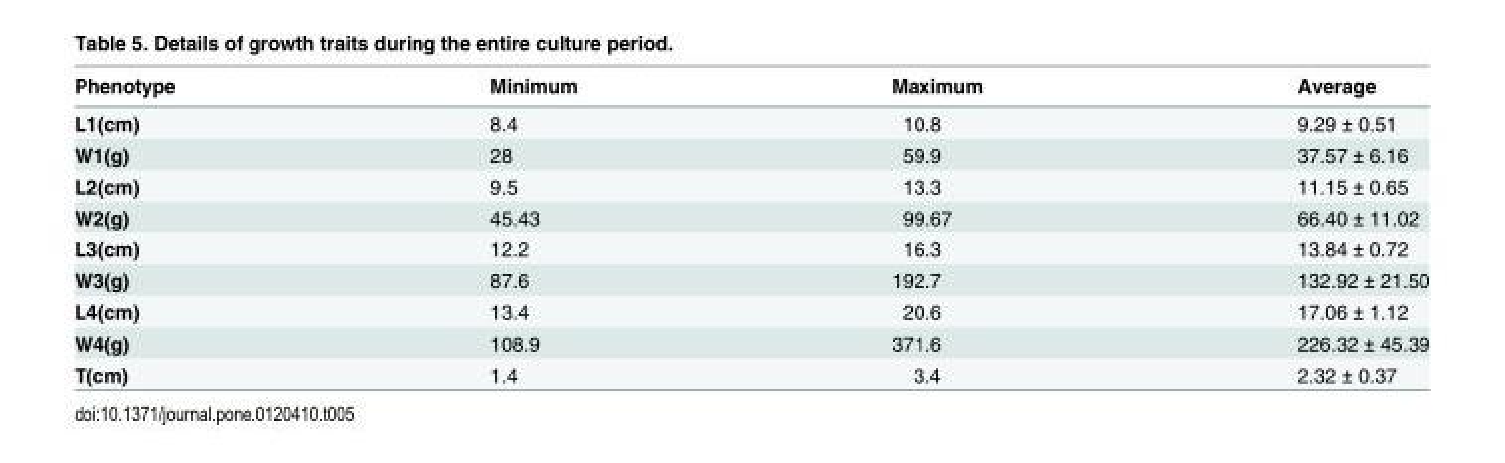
<table><thead><tr><td>Phenotype</td><td>Minimum</td><td>Maximum</td><td>Average</td></tr></thead><tbody><tr><td>L1(cm)</td><td>8.4</td><td>10.8</td><td>9.29 ± 0.51</td></tr><tr><td>W1(g)</td><td>28</td><td>59.9</td><td>37.57 ± 6.16</td></tr><tr><td>L2(cm)</td><td>9.5</td><td>13.3</td><td>11.15 ± 0.65</td></tr><tr><td>W2(g)</td><td>45.43</td><td>99.67</td><td>66.40 ± 11.02</td></tr><tr><td>L3(cm)</td><td>12.2</td><td>16.3</td><td>13.84 ± 0.72</td></tr><tr><td>W3(g)</td><td>87.6</td><td>192.7</td><td>132.92 ± 21.50</td></tr><tr><td>L4(cm)</td><td>13.4</td><td>20.6</td><td>17.06 ± 1.12</td></tr><tr><td>W4(g)</td><td>108.9</td><td>371.6</td><td>226.32 ± 45.39</td></tr><tr><td>T(cm)</td><td>1.4</td><td>3.4</td><td>2.32 ± 0.37</td></tr></tbody></table>